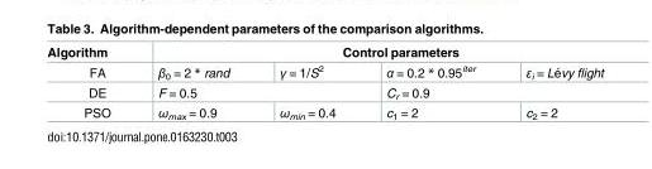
<table><thead><tr><td rowspan="2">Algorithm FA</td><td colspan="4">Control parameters</td></tr><tr><td>β<sub>0</sub> = 2 * rand</td><td>γ = 1/S<sup>2</sup></td><td>α = 0.2 * 0.95<sup>iter</sup></td><td>εi = Le´vy flight</td></tr></thead><tbody><tr><td>DE</td><td colspan="2">F = 0.5</td><td colspan="2">C<sub>r</sub> = 0.9</td></tr><tr><td>PSO</td><td>ω<sub>max</sub> = 0.9</td><td>ω<sub>min</sub> = 0.4</td><td>c<sub>1</sub> = 2</td><td>c<sub>2</sub> = 2</td></tr></tbody></table>